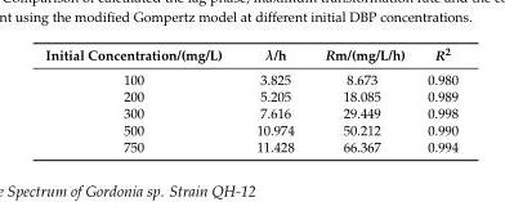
<table><thead><tr><td>Initial Concentration/(mg/L)</td><td>λ/h</td><td>Rm/(mg/L/h)</td><td>R<sup>2</sup></td></tr></thead><tbody><tr><td>100</td><td>3.825</td><td>8.673</td><td>0.980</td></tr><tr><td>200</td><td>5.205</td><td>18.085</td><td>0.989</td></tr><tr><td>300</td><td>7.616</td><td>29.449</td><td>0.998</td></tr><tr><td>500</td><td>10.974</td><td>50.212</td><td>0.990</td></tr><tr><td>750</td><td>11.428</td><td>66.367</td><td>0.994</td></tr></tbody></table>